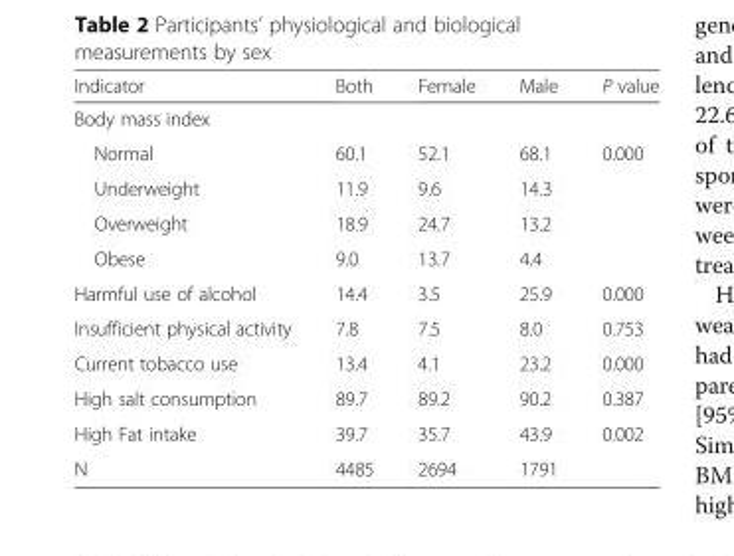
<table><thead><tr><td>Indicator</td><td>Both</td><td>Female</td><td>Male</td><td>P value</td></tr></thead><tbody><tr><td colspan="5">Body mass index</td></tr><tr><td>Normal</td><td>60.1</td><td>52.1</td><td>68.1</td><td>0.000</td></tr><tr><td>Underweight</td><td>11.9</td><td>9.6</td><td>14.3</td><td></td></tr><tr><td>Overweight</td><td>18.9</td><td>24.7</td><td>13.2</td><td></td></tr><tr><td>Obese</td><td>9.0</td><td>13.7</td><td>4.4</td><td></td></tr><tr><td>Harmful use of alcohol</td><td>14.4</td><td>3.5</td><td>25.9</td><td>0.000</td></tr><tr><td>Insufficient physical activity</td><td>7.8</td><td>7.5</td><td>8.0</td><td>0.753</td></tr><tr><td>Current tobacco use</td><td>13.4</td><td>4.1</td><td>23.2</td><td>0.000</td></tr><tr><td>High salt consumption</td><td>89.7</td><td>89.2</td><td>90.2</td><td>0.387</td></tr><tr><td>High Fat intake</td><td>39.7</td><td>35.7</td><td>43.9</td><td>0.002</td></tr><tr><td>N</td><td>4485</td><td>2694</td><td>1791</td><td></td></tr></tbody></table>